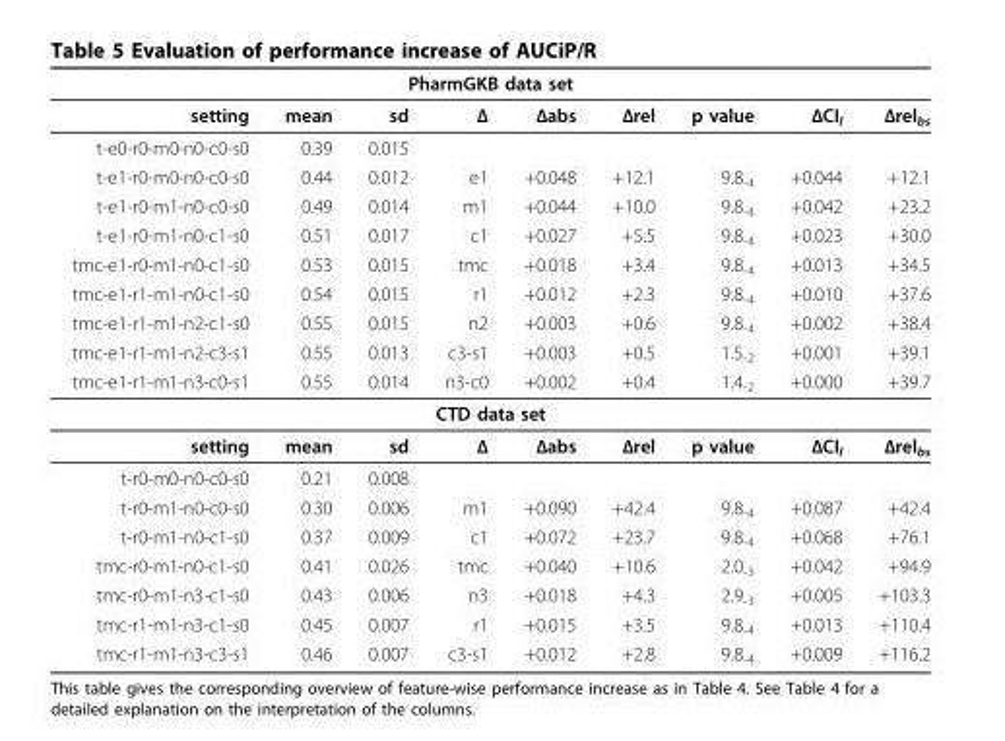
<table><thead><tr><td colspan="9">PharmGKB data set</td></tr><tr><td>setting</td><td>mean</td><td>sd</td><td>Δ</td><td>Δabs</td><td>Δrel</td><td>p value</td><td>ΔCI<sub>l</sub></td><td>Δrel<sub>bs</sub></td></tr></thead><tbody><tr><td>t-e0-r0-m0-n0-c0-s0</td><td>0.39</td><td>0.015</td><td></td><td></td><td></td><td></td><td></td><td></td></tr><tr><td>t-e1-r0-m0-n0-c0-s0</td><td>0.44</td><td>0.012</td><td>e1</td><td>+0.048</td><td>+12.1</td><td>9.8<sub>-4</sub></td><td>+0.044</td><td>+12.1</td></tr><tr><td>t-e1-r0-m1-n0-c0-s0</td><td>0.49</td><td>0.014</td><td>m1</td><td>+0.044</td><td>+10.0</td><td>9.8<sub>-4</sub></td><td>+0.042</td><td>+23.2</td></tr><tr><td>t-e1-r0-m1-n0-c1-s0</td><td>0.51</td><td>0.017</td><td>c1</td><td>+0.027</td><td>+5.5</td><td>9.8<sub>-4</sub></td><td>+0.023</td><td>+30.0</td></tr><tr><td>tmc-e1-r0-m1-n0-c1-s0</td><td>0.53</td><td>0.015</td><td>tmc</td><td>+0.018</td><td>+3.4</td><td>9.8<sub>-4</sub></td><td>+0.013</td><td>+34.5</td></tr><tr><td>tmc-e1-r1-m1-n0-c1-s0</td><td>0.54</td><td>0.015</td><td>r1</td><td>+0.012</td><td>+2.3</td><td>9.8<sub>-4</sub></td><td>+0.010</td><td>+37.6</td></tr><tr><td>tmc-e1-r1-m1-n2-c1-s0</td><td>0.55</td><td>0.015</td><td>n2</td><td>+0.003</td><td>+0.6</td><td>9.8<sub>-4</sub></td><td>+0.002</td><td>+38.4</td></tr><tr><td>tmc-e1-r1-m1-n2-c3-s1</td><td>0.55</td><td>0.013</td><td>c3-s1</td><td>+0.003</td><td>+0.5</td><td>1.5<sub>-2</sub></td><td>+0.001</td><td>+39.1</td></tr><tr><td>tmc-e1-r1-m1-n3-c0-s1</td><td>0.55</td><td>0.014</td><td>n3-c0</td><td>+0.002</td><td>+0.4</td><td>1.4<sub>-2</sub></td><td>+0.000</td><td>+39.7</td></tr><tr><td colspan="9">CTD data set</td></tr><tr><td>setting</td><td>mean</td><td>sd</td><td>Δ</td><td>Δabs</td><td>Δrel</td><td>p value</td><td>ΔCI<sub>l</sub></td><td>Δrel<sub>bs</sub></td></tr><tr><td>t-r0-m0-n0-c0-s0</td><td>0.21</td><td>0.008</td><td></td><td></td><td></td><td></td><td></td><td></td></tr><tr><td>t-r0-m1-n0-c0-s0</td><td>0.30</td><td>0.006</td><td>m1</td><td>+0.090</td><td>+42.4</td><td>9.8<sub>-4</sub></td><td>+0.087</td><td>+42.4</td></tr><tr><td>t-r0-m1-n0-c1-s0</td><td>0.37</td><td>0.009</td><td>c1</td><td>+0.072</td><td>+23.7</td><td>9.8<sub>-4</sub></td><td>+0.068</td><td>+76.1</td></tr><tr><td>tmc-r0-m1-n0-c1-s0</td><td>0.41</td><td>0.026</td><td>tmc</td><td>+0.040</td><td>+10.6</td><td>2.0<sub>-3</sub></td><td>+0.042</td><td>+94.9</td></tr><tr><td>tmc-r0-m1-n3-c1-s0</td><td>0.43</td><td>0.006</td><td>n3</td><td>+0.018</td><td>+4.3</td><td>2.9<sub>-3</sub></td><td>+0.005</td><td>+103.3</td></tr><tr><td>tmc-r1-m1-n3-c1-s0</td><td>0.45</td><td>0.007</td><td>r1</td><td>+0.015</td><td>+3.5</td><td>9.8<sub>-4</sub></td><td>+0.013</td><td>+110.4</td></tr><tr><td>tmc-r1-m1-n3-c3-s1</td><td>0.46</td><td>0.007</td><td>c3-s1</td><td>+0.012</td><td>+2.8</td><td>9.8<sub>-4</sub></td><td>+0.009</td><td>+116.2</td></tr></tbody></table>